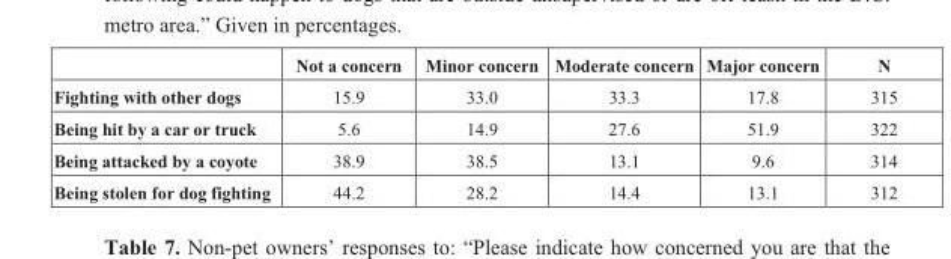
<table><thead><tr><td></td><td>Not a concern</td><td>Minor concern</td><td>Moderate concern</td><td>Major concern</td><td>N</td></tr></thead><tbody><tr><td>Fighting with other dogs</td><td>15.9</td><td>33.0</td><td>33.3</td><td>17.8</td><td>315</td></tr><tr><td>Being hit by a car or truck</td><td>5.6</td><td>14.9</td><td>27.6</td><td>51.9</td><td>322</td></tr><tr><td>Being attacked by a coyote</td><td>38.9</td><td>38.5</td><td>13.1</td><td>9.6</td><td>314</td></tr><tr><td>Being stolen for dog fighting</td><td>44.2</td><td>28.2</td><td>14.4</td><td>13.1</td><td>312</td></tr></tbody></table>